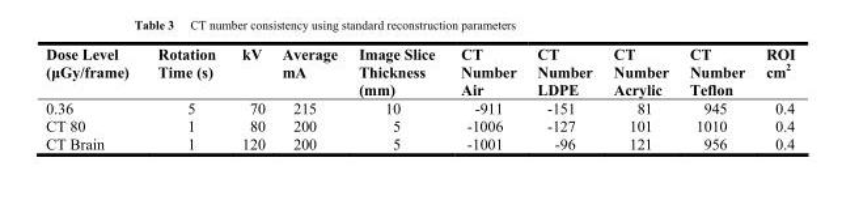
<table><thead><tr><td>Dose Level (µGy/frame)</td><td>Rotation Time (s)</td><td>kV</td><td>Average mA</td><td>Image Slice Thickness (mm)</td><td>CT Number Air</td><td>CT Number LDPE</td><td>CT Number Acrylic</td><td>CT Number Teflon</td><td>ROI cm<sup>2</sup></td></tr></thead><tbody><tr><td>0.36</td><td>5</td><td>70</td><td>215</td><td>10</td><td>-911</td><td>-151</td><td>81</td><td>945</td><td>0.4</td></tr><tr><td>CT 80</td><td>1</td><td>80</td><td>200</td><td>5</td><td>-1006</td><td>-127</td><td>101</td><td>1010</td><td>0.4</td></tr><tr><td>CT Brain</td><td>1</td><td>120</td><td>200</td><td>5</td><td>-1001</td><td>-96</td><td>121</td><td>956</td><td>0.4</td></tr></tbody></table>